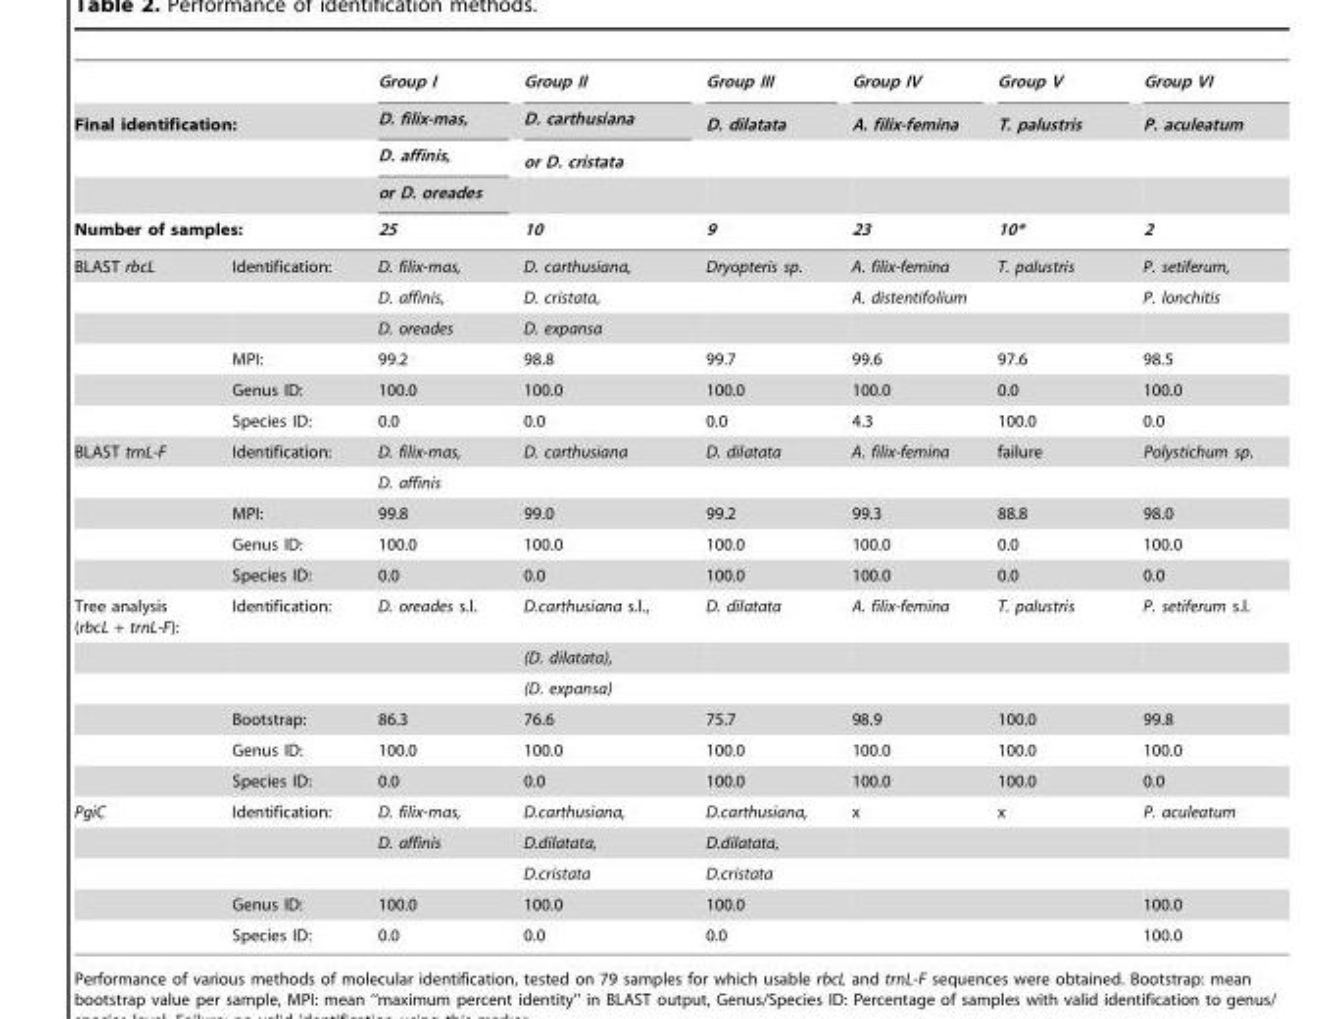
<table><thead><tr><td></td><td></td><td rowspan="5">Group I D. filix-mas, D. affinis, or D. oreades 25</td><td rowspan="5">Group II D. carthusiana or D. cristata 10</td><td rowspan="5">Group III D. dilatata 9</td><td rowspan="5">Group IV A. filix-femina 23</td><td rowspan="5">Group V T. palustris 10*</td><td rowspan="5">Group VI P. aculeatum 2</td></tr><tr><td colspan="2">Final identification:</td></tr><tr><td rowspan="2"></td><td rowspan="2"></td></tr><tr></tr><tr><td colspan="2">Number of samples:</td></tr></thead><tbody><tr><td rowspan="6">BLAST rbcL</td><td>Identification:</td><td>D. filix-mas,</td><td>D. carthusiana,</td><td>Dryopteris sp.</td><td>A. filix-femina</td><td>T. palustris</td><td>P. setiferum,</td></tr><tr><td></td><td>D. affinis,</td><td>D. cristata,</td><td></td><td>A. distentifolium</td><td></td><td>P. lonchitis</td></tr><tr><td></td><td>D. oreades</td><td>D. expansa</td><td></td><td></td><td></td><td></td></tr><tr><td>MPI:</td><td>99.2</td><td>98.8</td><td>99.7</td><td>99.6</td><td>97.6</td><td>98.5</td></tr><tr><td>Genus ID:</td><td>100.0</td><td>100.0</td><td>100.0</td><td>100.0</td><td>0.0</td><td>100.0</td></tr><tr><td>Species ID:</td><td>0.0</td><td>0.0</td><td>0.0</td><td>4.3</td><td>100.0</td><td>0.0</td></tr><tr><td rowspan="5">BLAST trnL-F</td><td>Identification:</td><td>D. filix-mas,</td><td>D. carthusiana</td><td>D. dilatata</td><td>A. filix-femina</td><td>failure</td><td>Polystichum sp.</td></tr><tr><td></td><td>D. affinis</td><td></td><td></td><td></td><td></td><td></td></tr><tr><td>MPI:</td><td>99.8</td><td>99.0</td><td>99.2</td><td>99.3</td><td>88.8</td><td>98.0</td></tr><tr><td>Genus ID:</td><td>100.0</td><td>100.0</td><td>100.0</td><td>100.0</td><td>0.0</td><td>100.0</td></tr><tr><td>Species ID:</td><td>0.0</td><td>0.0</td><td>100.0</td><td>100.0</td><td>0.0</td><td>0.0</td></tr><tr><td rowspan="6">Tree analysis (rbcL + trnL-F):</td><td>Identification:</td><td>D. oreades s.l.</td><td>D.carthusiana s.l.,</td><td>D. dilatata</td><td>A. filix-femina</td><td>T. palustris</td><td>P. setiferum s.l.</td></tr><tr><td></td><td></td><td>(D. dilatata),</td><td></td><td></td><td></td><td></td></tr><tr><td></td><td></td><td>(D. expansa)</td><td></td><td></td><td></td><td></td></tr><tr><td>Bootstrap:</td><td>86.3</td><td>76.6</td><td>75.7</td><td>98.9</td><td>100.0</td><td>99.8</td></tr><tr><td>Genus ID:</td><td>100.0</td><td>100.0</td><td>100.0</td><td>100.0</td><td>100.0</td><td>100.0</td></tr><tr><td>Species ID:</td><td>0.0</td><td>0.0</td><td>100.0</td><td>100.0</td><td>100.0</td><td>0.0</td></tr><tr><td rowspan="5">PgiC</td><td>Identification:</td><td>D. filix-mas,</td><td>D.carthusiana,</td><td>D.carthusiana,</td><td>x</td><td>x</td><td>P. aculeatum</td></tr><tr><td></td><td>D. affinis</td><td>D.dilatata,</td><td>D.dilatata,</td><td></td><td></td><td></td></tr><tr><td></td><td></td><td>D.cristata</td><td>D.cristata</td><td></td><td></td><td></td></tr><tr><td>Genus ID:</td><td>100.0</td><td>100.0</td><td>100.0</td><td></td><td></td><td>100.0</td></tr><tr><td>Species ID:</td><td>0.0</td><td>0.0</td><td>0.0</td><td></td><td></td><td>100.0</td></tr></tbody></table>